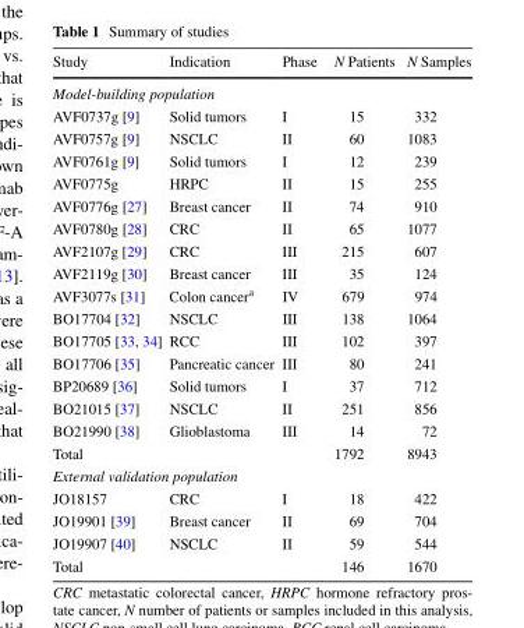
<table><thead><tr><td>Study</td><td>Indication</td><td>Phase</td><td>N Patients</td><td>N Samples</td></tr></thead><tbody><tr><td colspan="5">Model-building population</td></tr><tr><td>AVF0737g [9]</td><td>Solid tumors</td><td>I</td><td>15</td><td>332</td></tr><tr><td>AVF0757g [9]</td><td>NSCLC</td><td>II</td><td>60</td><td>1083</td></tr><tr><td>AVF0761g [9]</td><td>Solid tumors</td><td>I</td><td>12</td><td>239</td></tr><tr><td>AVF0775g</td><td>HRPC</td><td>II</td><td>15</td><td>255</td></tr><tr><td>AVF0776g [27]</td><td>Breast cancer</td><td>II</td><td>74</td><td>910</td></tr><tr><td>AVF0780g [28]</td><td>CRC</td><td>II</td><td>65</td><td>1077</td></tr><tr><td>AVF2107g [29]</td><td>CRC</td><td>III</td><td>215</td><td>607</td></tr><tr><td>AVF2119g [30]</td><td>Breast cancer</td><td>III</td><td>35</td><td>124</td></tr><tr><td>AVF3077s [31]</td><td>Colon cancer<sup>a</sup></td><td>IV</td><td>679</td><td>974</td></tr><tr><td>BO17704 [32]</td><td>NSCLC</td><td>III</td><td>138</td><td>1064</td></tr><tr><td>BO17705 [33, 34]</td><td>RCC</td><td>III</td><td>102</td><td>397</td></tr><tr><td>BO17706 [35]</td><td>Pancreatic cancer</td><td>III</td><td>80</td><td>241</td></tr><tr><td>BP20689 [36]</td><td>Solid tumors</td><td>I</td><td>37</td><td>712</td></tr><tr><td>BO21015 [37]</td><td>NSCLC</td><td>II</td><td>251</td><td>856</td></tr><tr><td>BO21990 [38]</td><td>Glioblastoma</td><td>III</td><td>14</td><td>72</td></tr><tr><td>Total</td><td></td><td></td><td>1792</td><td>8943</td></tr><tr><td colspan="5">External validation population</td></tr><tr><td>JO18157</td><td>CRC</td><td>I</td><td>18</td><td>422</td></tr><tr><td>JO19901 [39]</td><td>Breast cancer</td><td>II</td><td>69</td><td>704</td></tr><tr><td>JO19907 [40]</td><td>NSCLC</td><td>II</td><td>59</td><td>544</td></tr><tr><td>Total</td><td></td><td></td><td>146</td><td>1670</td></tr></tbody></table>